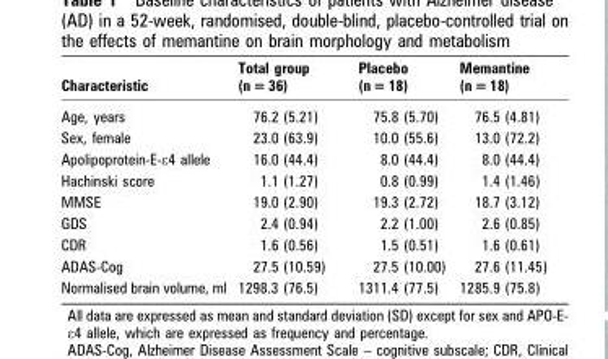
<table><thead><tr><td>Characteristic</td><td>Total group (n = 36)</td><td>Placebo (n = 18)</td><td>Memantine (n = 18)</td></tr></thead><tbody><tr><td>Age, years</td><td>76.2 (5.21)</td><td>75.8 (5.70)</td><td>76.5 (4.81)</td></tr><tr><td>Sex, female</td><td>23.0 (63.9)</td><td>10.0 (55.6)</td><td>13.0 (72.2)</td></tr><tr><td>Apolipoprotein-E-ϵ4 allele</td><td>16.0 (44.4)</td><td>8.0 (44.4)</td><td>8.0 (44.4)</td></tr><tr><td>Hachinski score</td><td>1.1 (1.27)</td><td>0.8 (0.99)</td><td>1.4 (1.46)</td></tr><tr><td>MMSE</td><td>19.0 (2.90)</td><td>19.3 (2.72)</td><td>18.7 (3.12)</td></tr><tr><td>GDS</td><td>2.4 (0.94)</td><td>2.2 (1.00)</td><td>2.6 (0.85)</td></tr><tr><td>CDR</td><td>1.6 (0.56)</td><td>1.5 (0.51)</td><td>1.6 (0.61)</td></tr><tr><td>ADAS-Cog</td><td>27.5 (10.59)</td><td>27.5 (10.00)</td><td>27.6 (11.45)</td></tr><tr><td>Normalised brain volume, ml</td><td>1298.3 (76.5)</td><td>1311.4 (77.5)</td><td>1285.9 (75.8)</td></tr></tbody></table>